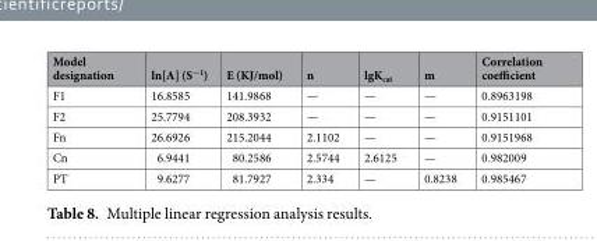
<table><thead><tr><td>Model designation</td><td>ln[A] (S<sup>−1</sup>)</td><td>E (KJ/mol)</td><td>n</td><td>lgK<sub>cat</sub></td><td>m</td><td>Correlation coefficient</td></tr></thead><tbody><tr><td>F1</td><td>16.8585</td><td>141.9868</td><td>—</td><td>—</td><td>—</td><td>0.8963198</td></tr><tr><td>F2</td><td>25.7794</td><td>208.3932</td><td>—</td><td>—</td><td>—</td><td>0.9151101</td></tr><tr><td>Fn</td><td>26.6926</td><td>215.2044</td><td>2.1102</td><td>—</td><td>—</td><td>0.9151968</td></tr><tr><td>Cn</td><td>6.9441</td><td>80.2586</td><td>2.5744</td><td>2.6125</td><td>—</td><td>0.982009</td></tr><tr><td>PT</td><td>9.6277</td><td>81.7927</td><td>2.334</td><td>—</td><td>0.8238</td><td>0.985467</td></tr></tbody></table>